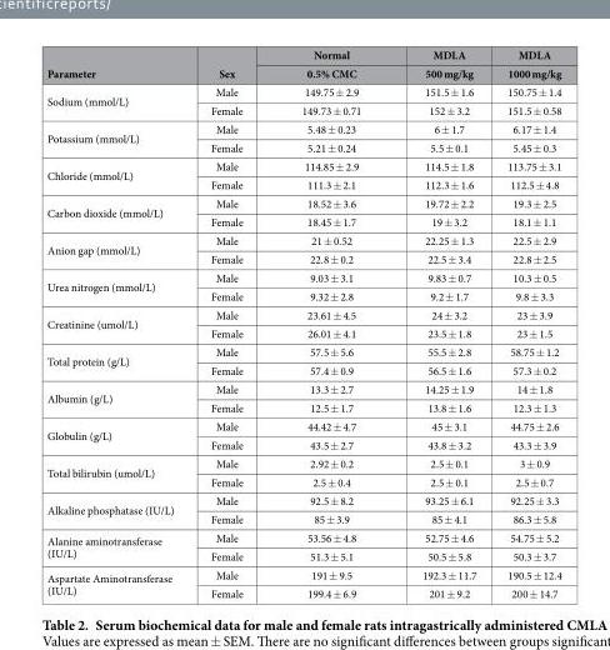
<table><thead><tr><td rowspan="2">Parameter</td><td rowspan="2">Sex</td><td rowspan="2">Normal 0.5% CMC</td><td rowspan="2">MDLA 500 mg/kg</td><td rowspan="2">MDLA 1000 mg/kg</td></tr><tr></tr></thead><tbody><tr><td rowspan="2">Sodium (mmol/L)</td><td>Male</td><td>149.75 ± 2.9</td><td>151.5 ± 1.6</td><td>150.75 ± 1.4</td></tr><tr><td>Female</td><td>149.73 ± 0.71</td><td>152 ± 3.2</td><td>151.5 ± 0.58</td></tr><tr><td rowspan="2">Potassium (mmol/L)</td><td>Male</td><td>5.48 ± 0.23</td><td>6 ± 1.7</td><td>6.17 ± 1.4</td></tr><tr><td>Female</td><td>5.21 ± 0.24</td><td>5.5 ± 0.1</td><td>5.45 ± 0.3</td></tr><tr><td rowspan="2">Chloride (mmol/L)</td><td>Male</td><td>114.85 ± 2.9</td><td>114.5 ± 1.8</td><td>113.75 ± 3.1</td></tr><tr><td>Female</td><td>111.3 ± 2.1</td><td>112.3 ± 1.6</td><td>112.5 ± 4.8</td></tr><tr><td rowspan="2">Carbon dioxide (mmol/L)</td><td>Male</td><td>18.52 ± 3.6</td><td>19.72 ± 2.2</td><td>19.3 ± 2.5</td></tr><tr><td>Female</td><td>18.45 ± 1.7</td><td>19 ± 3.2</td><td>18.1 ± 1.1</td></tr><tr><td rowspan="2">Anion gap (mmol/L)</td><td>Male</td><td>21 ± 0.52</td><td>22.25 ± 1.3</td><td>22.5 ± 2.9</td></tr><tr><td>Female</td><td>22.8 ± 0.2</td><td>22.5 ± 3.4</td><td>22.8 ± 2.5</td></tr><tr><td rowspan="2">Urea nitrogen (mmol/L)</td><td>Male</td><td>9.03 ± 3.1</td><td>9.83 ± 0.7</td><td>10.3 ± 0.5</td></tr><tr><td>Female</td><td>9.32 ± 2.8</td><td>9.2 ± 1.7</td><td>9.8 ± 3.3</td></tr><tr><td rowspan="2">Creatinine (umol/L)</td><td>Male</td><td>23.61 ± 4.5</td><td>24 ± 3.2</td><td>23 ± 3.9</td></tr><tr><td>Female</td><td>26.01 ± 4.1</td><td>23.5 ± 1.8</td><td>23 ± 1.5</td></tr><tr><td rowspan="2">Total protein (g/L)</td><td>Male</td><td>57.5 ± 5.6</td><td>55.5 ± 2.8</td><td>58.75 ± 1.2</td></tr><tr><td>Female</td><td>57.4 ± 0.9</td><td>56.5 ± 1.6</td><td>57.3 ± 0.2</td></tr><tr><td rowspan="2">Albumin (g/L)</td><td>Male</td><td>13.3 ± 2.7</td><td>14.25 ± 1.9</td><td>14 ± 1.8</td></tr><tr><td>Female</td><td>12.5 ± 1.7</td><td>13.8 ± 1.6</td><td>12.3 ± 1.3</td></tr><tr><td rowspan="2">Globulin (g/L)</td><td>Male</td><td>44.42 ± 4.7</td><td>45 ± 3.1</td><td>44.75 ± 2.6</td></tr><tr><td>Female</td><td>43.5 ± 2.7</td><td>43.8 ± 3.2</td><td>43.3 ± 3.9</td></tr><tr><td rowspan="2">Total bilirubin (umol/L)</td><td>Male</td><td>2.92 ± 0.2</td><td>2.5 ± 0.1</td><td>3 ± 0.9</td></tr><tr><td>Female</td><td>2.5 ± 0.4</td><td>2.5 ± 0.1</td><td>2.5 ± 0.7</td></tr><tr><td rowspan="2">Alkaline phosphatase (IU/L)</td><td>Male</td><td>92.5 ± 8.2</td><td>93.25 ± 6.1</td><td>92.25 ± 3.3</td></tr><tr><td>Female</td><td>85 ± 3.9</td><td>85 ± 4.1</td><td>86.3 ± 5.8</td></tr><tr><td rowspan="2">Alanine aminotransferase (IU/L)</td><td>Male</td><td>53.56 ± 4.8</td><td>52.75 ± 4.6</td><td>54.75 ± 5.2</td></tr><tr><td>Female</td><td>51.3 ± 5.1</td><td>50.5 ± 5.8</td><td>50.3 ± 3.7</td></tr><tr><td rowspan="2">Aspartate Aminotransferase (IU/L)</td><td>Male</td><td>191 ± 9.5</td><td>192.3 ± 11.7</td><td>190.5 ± 12.4</td></tr><tr><td>Female</td><td>199.4 ± 6.9</td><td>201 ± 9.2</td><td>200 ± 14.7</td></tr></tbody></table>